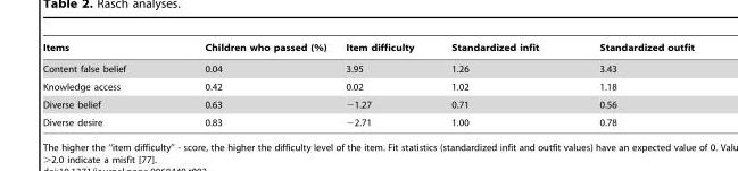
<table><thead><tr><td>Items</td><td>Children who passed (%)</td><td>Item difficulty</td><td>Standardized infit</td><td>Standardized outfit</td></tr></thead><tbody><tr><td>Content false belief</td><td>0.04</td><td>3.95</td><td>1.26</td><td>3.43</td></tr><tr><td>Knowledge access</td><td>0.42</td><td>0.02</td><td>1.02</td><td>1.18</td></tr><tr><td>Diverse belief</td><td>0.63</td><td>−1.27</td><td>0.71</td><td>0.56</td></tr><tr><td>Diverse desire</td><td>0.83</td><td>−2.71</td><td>1.00</td><td>0.78</td></tr></tbody></table>